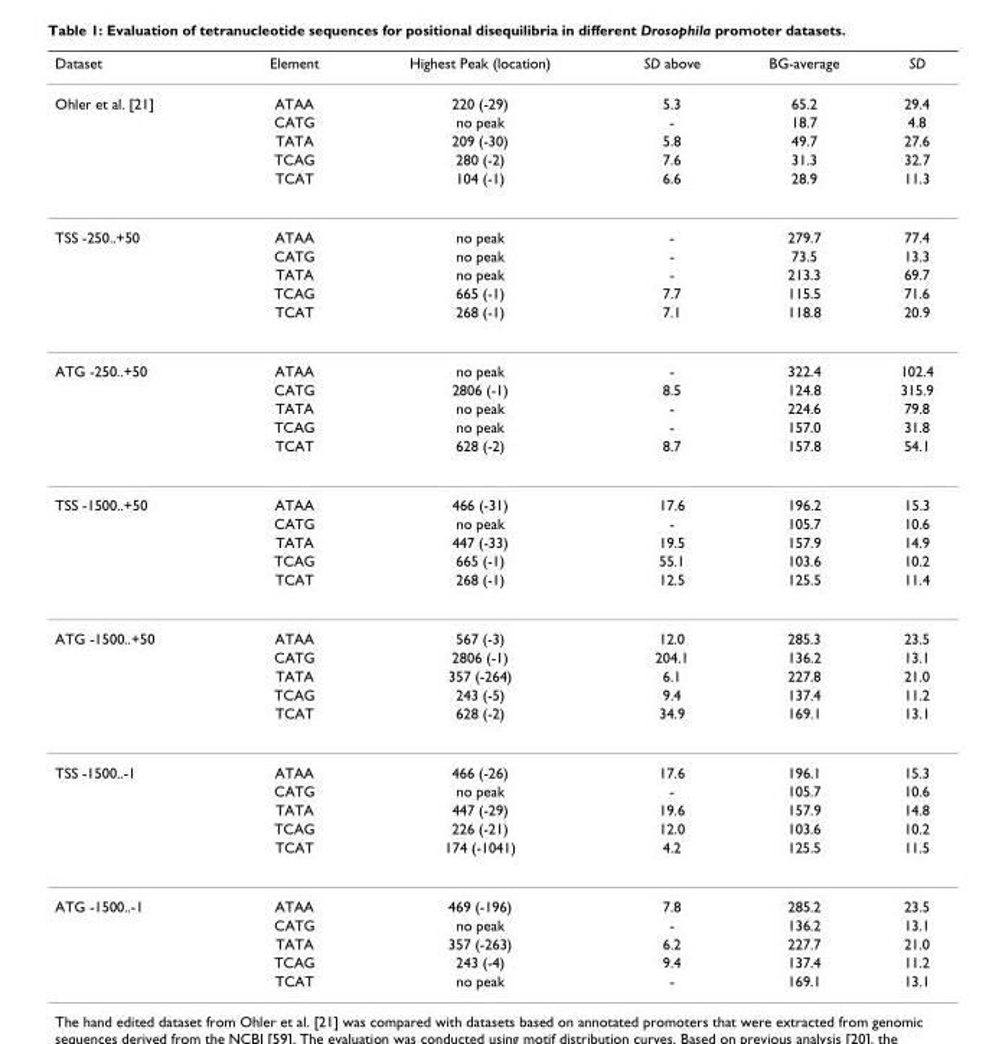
<table><thead><tr><td>Dataset</td><td>Element</td><td>Highest Peak (location)</td><td>SD above</td><td>BG-average</td><td>SD</td></tr></thead><tbody><tr><td rowspan="5">Ohler et al. [21]</td><td>ATAA</td><td>220 (-29)</td><td>5.3</td><td>65.2</td><td>29.4</td></tr><tr><td>CATG</td><td>no peak</td><td>-</td><td>18.7</td><td>4.8</td></tr><tr><td>TATA</td><td>209 (-30)</td><td>5.8</td><td>49.7</td><td>27.6</td></tr><tr><td>TCAG</td><td>280 (-2)</td><td>7.6</td><td>31.3</td><td>32.7</td></tr><tr><td>TCAT</td><td>104 (-1)</td><td>6.6</td><td>28.9</td><td>11.3</td></tr><tr><td rowspan="5">TSS -250..+50</td><td>ATAA</td><td>no peak</td><td>-</td><td>279.7</td><td>77.4</td></tr><tr><td>CATG</td><td>no peak</td><td>-</td><td>73.5</td><td>13.3</td></tr><tr><td>TATA</td><td>no peak</td><td>-</td><td>213.3</td><td>69.7</td></tr><tr><td>TCAG</td><td>665 (-1)</td><td>7.7</td><td>115.5</td><td>71.6</td></tr><tr><td>TCAT</td><td>268 (-1)</td><td>7.1</td><td>118.8</td><td>20.9</td></tr><tr><td rowspan="5">ATG -250..+50</td><td>ATAA</td><td>no peak</td><td>-</td><td>322.4</td><td>102.4</td></tr><tr><td>CATG</td><td>2806 (-1)</td><td>8.5</td><td>124.8</td><td>315.9</td></tr><tr><td>TATA</td><td>no peak</td><td>-</td><td>224.6</td><td>79.8</td></tr><tr><td>TCAG</td><td>no peak</td><td>-</td><td>157.0</td><td>31.8</td></tr><tr><td>TCAT</td><td>628 (-2)</td><td>8.7</td><td>157.8</td><td>54.1</td></tr><tr><td rowspan="5">TSS -1500..+50</td><td>ATAA</td><td>466 (-31)</td><td>17.6</td><td>196.2</td><td>15.3</td></tr><tr><td>CATG</td><td>no peak</td><td>-</td><td>105.7</td><td>10.6</td></tr><tr><td>TATA</td><td>447 (-33)</td><td>19.5</td><td>157.9</td><td>14.9</td></tr><tr><td>TCAG</td><td>665 (-1)</td><td>55.1</td><td>103.6</td><td>10.2</td></tr><tr><td>TCAT</td><td>268 (-1)</td><td>12.5</td><td>125.5</td><td>11.4</td></tr><tr><td rowspan="5">ATG -1500..+50</td><td>ATAA</td><td>567 (-3)</td><td>12.0</td><td>285.3</td><td>23.5</td></tr><tr><td>CATG</td><td>2806 (-1)</td><td>204.1</td><td>136.2</td><td>13.1</td></tr><tr><td>TATA</td><td>357 (-264)</td><td>6.1</td><td>227.8</td><td>21.0</td></tr><tr><td>TCAG</td><td>243 (-5)</td><td>9.4</td><td>137.4</td><td>11.2</td></tr><tr><td>TCAT</td><td>628 (-2)</td><td>34.9</td><td>169.1</td><td>13.1</td></tr><tr><td rowspan="5">TSS -1500..-1</td><td>ATAA</td><td>466 (-26)</td><td>17.6</td><td>196.1</td><td>15.3</td></tr><tr><td>CATG</td><td>no peak</td><td>-</td><td>105.7</td><td>10.6</td></tr><tr><td>TATA</td><td>447 (-29)</td><td>19.6</td><td>157.9</td><td>14.8</td></tr><tr><td>TCAG</td><td>226 (-21)</td><td>12.0</td><td>103.6</td><td>10.2</td></tr><tr><td>TCAT</td><td>174 (-1041)</td><td>4.2</td><td>125.5</td><td>11.5</td></tr><tr><td rowspan="5">ATG -1500..-1</td><td>ATAA</td><td>469 (-196)</td><td>7.8</td><td>285.2</td><td>23.5</td></tr><tr><td>CATG</td><td>no peak</td><td>-</td><td>136.2</td><td>13.1</td></tr><tr><td>TATA</td><td>357 (-263)</td><td>6.2</td><td>227.7</td><td>21.0</td></tr><tr><td>TCAG</td><td>243 (-4)</td><td>9.4</td><td>137.4</td><td>11.2</td></tr><tr><td>TCAT</td><td>no peak</td><td>-</td><td>169.1</td><td>13.1</td></tr></tbody></table>